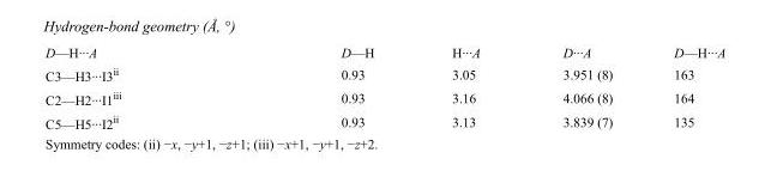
<table><tbody><tr><td>D—H···A</td><td>D—H</td><td>H···A</td><td>D···A</td><td>D—H···A</td></tr><tr><td>C3—H3···I3<sup>ii</sup></td><td>0.93</td><td>3.05</td><td>3.951 (8)</td><td>163</td></tr><tr><td>C2—H2···I1<sup>iii</sup></td><td>0.93</td><td>3.16</td><td>4.066 (8)</td><td>164</td></tr><tr><td>C5—H5···I2<sup>ii</sup></td><td>0.93</td><td>3.13</td><td>3.839 (7)</td><td>135</td></tr></tbody></table>